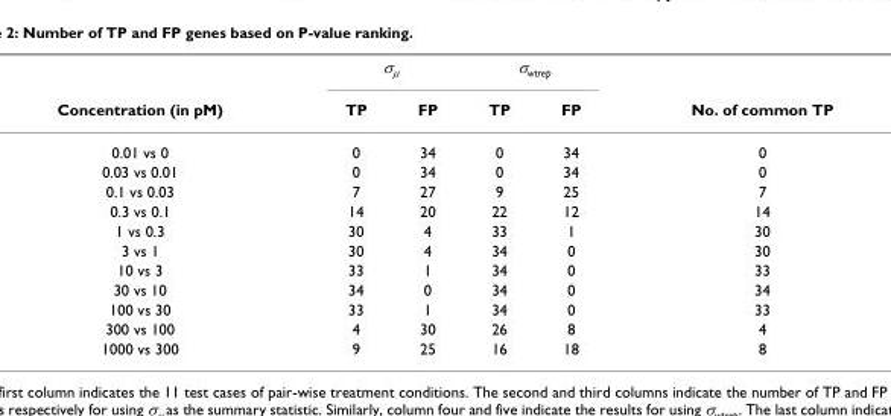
<table><thead><tr><td rowspan="2">Concentration (in pM)</td><td colspan="2">σ<sub>μ</sub></td><td colspan="2">σ<sub>wtrep</sub></td><td rowspan="2">No. of common TP</td></tr><tr><td>TP</td><td>FP</td><td>TP</td><td>FP</td></tr></thead><tbody><tr><td>0.01 vs 0</td><td>0</td><td>34</td><td>0</td><td>34</td><td>0</td></tr><tr><td>0.03 vs 0.01</td><td>0</td><td>34</td><td>0</td><td>34</td><td>0</td></tr><tr><td>0.1 vs 0.03</td><td>7</td><td>27</td><td>9</td><td>25</td><td>7</td></tr><tr><td>0.3 vs 0.1</td><td>14</td><td>20</td><td>22</td><td>12</td><td>14</td></tr><tr><td>1 vs 0.3</td><td>30</td><td>4</td><td>33</td><td>1</td><td>30</td></tr><tr><td>3 vs 1</td><td>30</td><td>4</td><td>34</td><td>0</td><td>30</td></tr><tr><td>10 vs 3</td><td>33</td><td>1</td><td>34</td><td>0</td><td>33</td></tr><tr><td>30 vs 10</td><td>34</td><td>0</td><td>34</td><td>0</td><td>34</td></tr><tr><td>100 vs 30</td><td>33</td><td>1</td><td>34</td><td>0</td><td>33</td></tr><tr><td>300 vs 100</td><td>4</td><td>30</td><td>26</td><td>8</td><td>4</td></tr><tr><td>1000 vs 300</td><td>9</td><td>25</td><td>16</td><td>18</td><td>8</td></tr></tbody></table>